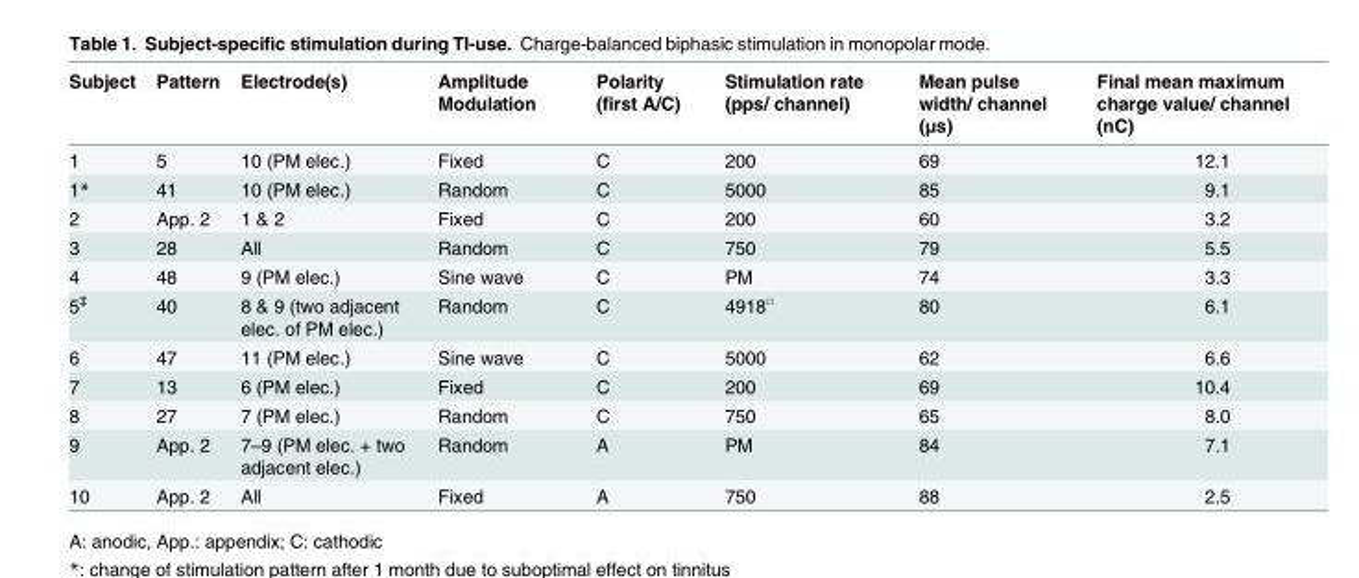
<table><thead><tr><td>Subject</td><td>Pattern</td><td>Electrode(s)</td><td>Amplitude Modulation</td><td>Polarity (first A/C)</td><td>Stimulation rate (pps/ channel)</td><td>Mean pulse width/ channel (μs)</td><td>Final mean maximum charge value/ channel (nC)</td></tr></thead><tbody><tr><td>1</td><td>5</td><td>10 (PM elec.)</td><td>Fixed</td><td>C</td><td>200</td><td>69</td><td>12.1</td></tr><tr><td>1*</td><td>41</td><td>10 (PM elec.)</td><td>Random</td><td>C</td><td>5000</td><td>85</td><td>9.1</td></tr><tr><td>2</td><td>App. 2</td><td>1 &amp; 2</td><td>Fixed</td><td>C</td><td>200</td><td>60</td><td>3.2</td></tr><tr><td>3</td><td>28</td><td>All</td><td>Random</td><td>C</td><td>750</td><td>79</td><td>5.5</td></tr><tr><td>4</td><td>48</td><td>9 (PM elec.)</td><td>Sine wave</td><td>C</td><td>PM</td><td>74</td><td>3.3</td></tr><tr><td>5<sup>‡</sup></td><td>40</td><td>8 &amp; 9 (two adjacent elec. of PM elec.)</td><td>Random</td><td>C</td><td>4918<sup>□</sup></td><td>80</td><td>6.1</td></tr><tr><td>6</td><td>47</td><td>11 (PM elec.)</td><td>Sine wave</td><td>C</td><td>5000</td><td>62</td><td>6.6</td></tr><tr><td>7</td><td>13</td><td>6 (PM elec.)</td><td>Fixed</td><td>C</td><td>200</td><td>69</td><td>10.4</td></tr><tr><td>8</td><td>27</td><td>7 (PM elec.)</td><td>Random</td><td>C</td><td>750</td><td>65</td><td>8.0</td></tr><tr><td>9</td><td>App. 2</td><td>7–9 (PM elec. + two adjacent elec.)</td><td>Random</td><td>A</td><td>PM</td><td>84</td><td>7.1</td></tr><tr><td>10</td><td>App. 2</td><td>All</td><td>Fixed</td><td>A</td><td>750</td><td>88</td><td>2.5</td></tr></tbody></table>